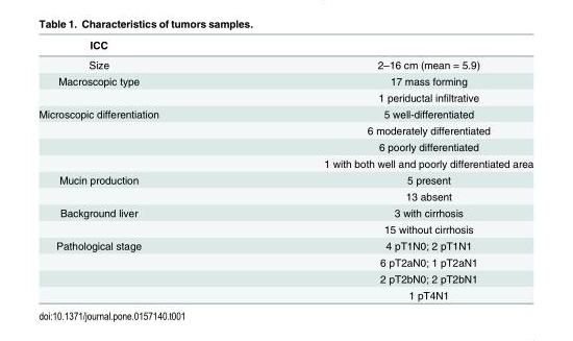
<table><thead><tr><td>ICC</td><td></td></tr></thead><tbody><tr><td>Size</td><td>2–16 cm (mean = 5.9)</td></tr><tr><td rowspan="2">Macroscopic type</td><td>17 mass forming</td></tr><tr><td>1 periductal infiltrative</td></tr><tr><td rowspan="4">Microscopic differentiation</td><td>5 well-differentiated</td></tr><tr><td>6 moderately differentiated</td></tr><tr><td>6 poorly differentiated</td></tr><tr><td>1 with both well and poorly differentiated area</td></tr><tr><td rowspan="2">Mucin production</td><td>5 present</td></tr><tr><td>13 absent</td></tr><tr><td rowspan="2">Background liver</td><td>3 with cirrhosis</td></tr><tr><td>15 without cirrhosis</td></tr><tr><td rowspan="4">Pathological stage</td><td>4 pT1N0; 2 pT1N1</td></tr><tr><td>6 pT2aN0; 1 pT2aN1</td></tr><tr><td>2 pT2bN0; 2 pT2bN1</td></tr><tr><td>1 pT4N1</td></tr></tbody></table>